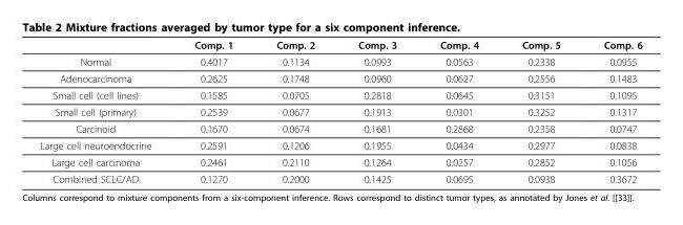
<table><thead><tr><td></td><td>Comp. 1</td><td>Comp. 2</td><td>Comp. 3</td><td>Comp. 4</td><td>Comp. 5</td><td>Comp. 6</td></tr></thead><tbody><tr><td>Normal</td><td>0.4017</td><td>0.1134</td><td>0.0993</td><td>0.0563</td><td>0.2338</td><td>0.0955</td></tr><tr><td>Adenocarcinoma</td><td>0.2625</td><td>0.1748</td><td>0.0960</td><td>0.0627</td><td>0.2556</td><td>0.1483</td></tr><tr><td>Small cell (cell lines)</td><td>0.1585</td><td>0.0705</td><td>0.2818</td><td>0.0645</td><td>0.3151</td><td>0.1095</td></tr><tr><td>Small cell (primary)</td><td>0.2539</td><td>0.0677</td><td>0.1913</td><td>0.0301</td><td>0.3252</td><td>0.1317</td></tr><tr><td>Carcinoid</td><td>0.1670</td><td>0.0674</td><td>0.1681</td><td>0.2868</td><td>0.2358</td><td>0.0747</td></tr><tr><td>Large cell neuroendocrine</td><td>0.2591</td><td>0.1206</td><td>0.1955</td><td>0.0434</td><td>0.2977</td><td>0.0838</td></tr><tr><td>Large cell carcinoma</td><td>0.2461</td><td>0.2110</td><td>0.1264</td><td>0.0257</td><td>0.2852</td><td>0.1056</td></tr><tr><td>Combined SCLC/AD</td><td>0.1270</td><td>0.2000</td><td>0.1425</td><td>0.0695</td><td>0.0938</td><td>0.3672</td></tr></tbody></table>